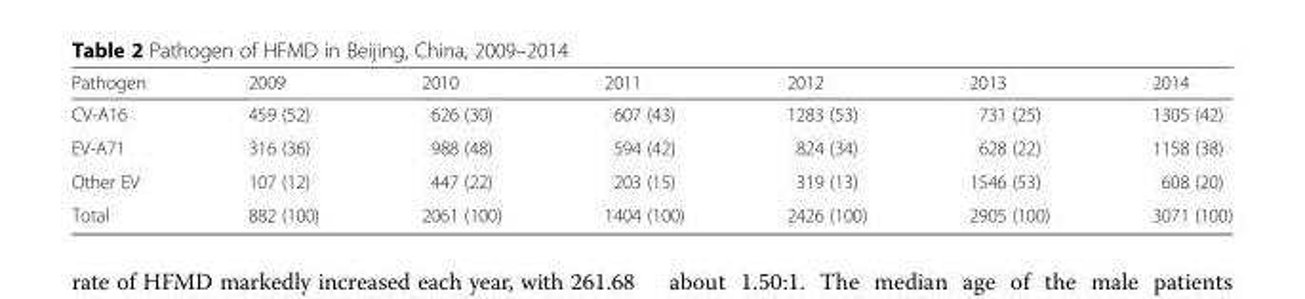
<table><thead><tr><td>Pathogen</td><td>2009</td><td>2010</td><td>2011</td><td>2012</td><td>2013</td><td>2014</td></tr></thead><tbody><tr><td>CV-A16</td><td>459 (52)</td><td>626 (30)</td><td>607 (43)</td><td>1283 (53)</td><td>731 (25)</td><td>1305 (42)</td></tr><tr><td>EV-A71</td><td>316 (36)</td><td>988 (48)</td><td>594 (42)</td><td>824 (34)</td><td>628 (22)</td><td>1158 (38)</td></tr><tr><td>Other EV</td><td>107 (12)</td><td>447 (22)</td><td>203 (15)</td><td>319 (13)</td><td>1546 (53)</td><td>608 (20)</td></tr><tr><td>Total</td><td>882 (100)</td><td>2061 (100)</td><td>1404 (100)</td><td>2426 (100)</td><td>2905 (100)</td><td>3071 (100)</td></tr></tbody></table>